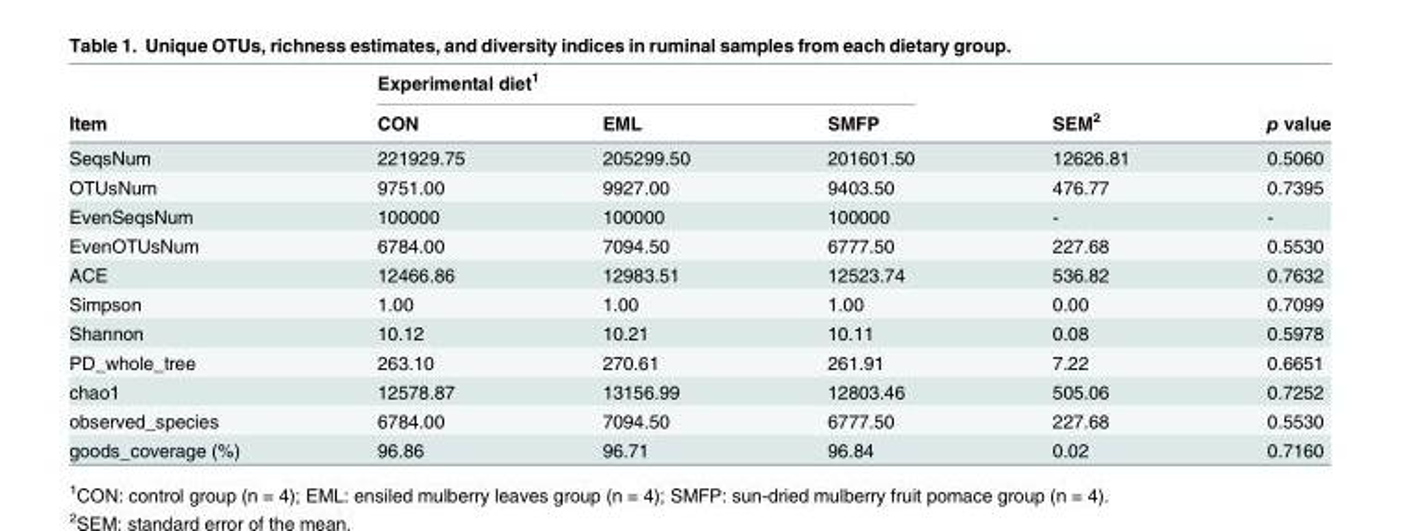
<table><thead><tr><td rowspan="2">Item</td><td colspan="3">Experimental diet<sup>1</sup></td><td rowspan="2">SEM<sup>2</sup></td><td rowspan="2">p value</td></tr><tr><td>CON</td><td>EML</td><td>SMFP</td></tr></thead><tbody><tr><td>SeqsNum</td><td>221929.75</td><td>205299.50</td><td>201601.50</td><td>12626.81</td><td>0.5060</td></tr><tr><td>OTUsNum</td><td>9751.00</td><td>9927.00</td><td>9403.50</td><td>476.77</td><td>0.7395</td></tr><tr><td>EvenSeqsNum</td><td>100000</td><td>100000</td><td>100000</td><td>-</td><td>-</td></tr><tr><td>EvenOTUsNum</td><td>6784.00</td><td>7094.50</td><td>6777.50</td><td>227.68</td><td>0.5530</td></tr><tr><td>ACE</td><td>12466.86</td><td>12983.51</td><td>12523.74</td><td>536.82</td><td>0.7632</td></tr><tr><td>Simpson</td><td>1.00</td><td>1.00</td><td>1.00</td><td>0.00</td><td>0.7099</td></tr><tr><td>Shannon</td><td>10.12</td><td>10.21</td><td>10.11</td><td>0.08</td><td>0.5978</td></tr><tr><td>PD_whole_tree</td><td>263.10</td><td>270.61</td><td>261.91</td><td>7.22</td><td>0.6651</td></tr><tr><td>chao1</td><td>12578.87</td><td>13156.99</td><td>12803.46</td><td>505.06</td><td>0.7252</td></tr><tr><td>observed_species</td><td>6784.00</td><td>7094.50</td><td>6777.50</td><td>227.68</td><td>0.5530</td></tr><tr><td>goods_coverage (%)</td><td>96.86</td><td>96.71</td><td>96.84</td><td>0.02</td><td>0.7160</td></tr></tbody></table>